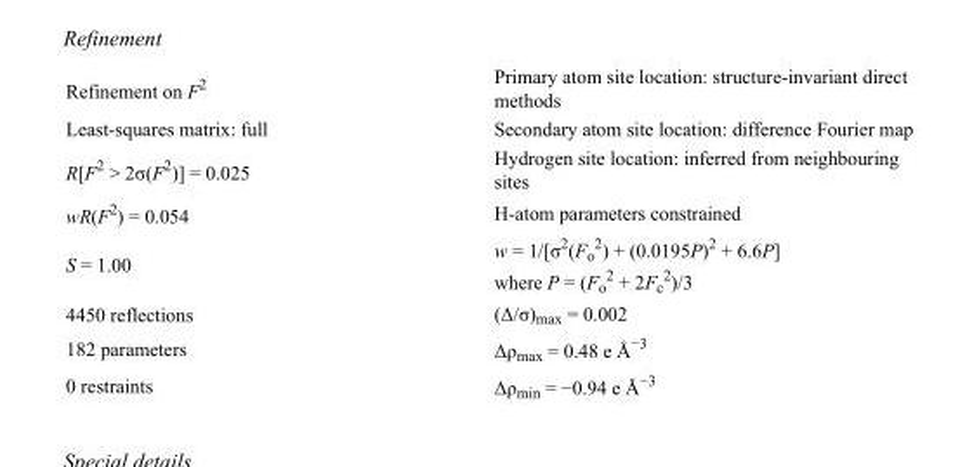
<table><tbody><tr><td>Refinement on F<sup>2</sup></td><td>Primary atom site location: structure-invariant direct methods</td></tr><tr><td>Least-squares matrix: full</td><td>Secondary atom site location: difference Fourier map</td></tr><tr><td>R[F<sup>2</sup> &gt; 2σ(F<sup>2</sup>)] = 0.025</td><td>Hydrogen site location: inferred from neighbouring sites</td></tr><tr><td>wR(F<sup>2</sup>) = 0.054</td><td>H-atom parameters constrained</td></tr><tr><td>S = 1.00</td><td>w = 1/[σ<sup>2</sup>(F<sub>o</sub> <sup>2</sup>) + (0.0195P)<sup>2</sup> + 6.6P] where P = (F<sub>o</sub> <sup>2</sup> + 2F<sub>c</sub> <sup>2</sup>)/3</td></tr><tr><td>4450 reflections</td><td>(Δ/σ)<sub>max</sub> = 0.002</td></tr><tr><td>182 parameters</td><td>Δρ<sub>max</sub> = 0.48 e Å<sup>−3</sup></td></tr><tr><td>0 restraints</td><td>Δρ<sub>min</sub> = −0.94 e Å<sup>−3</sup></td></tr></tbody></table>